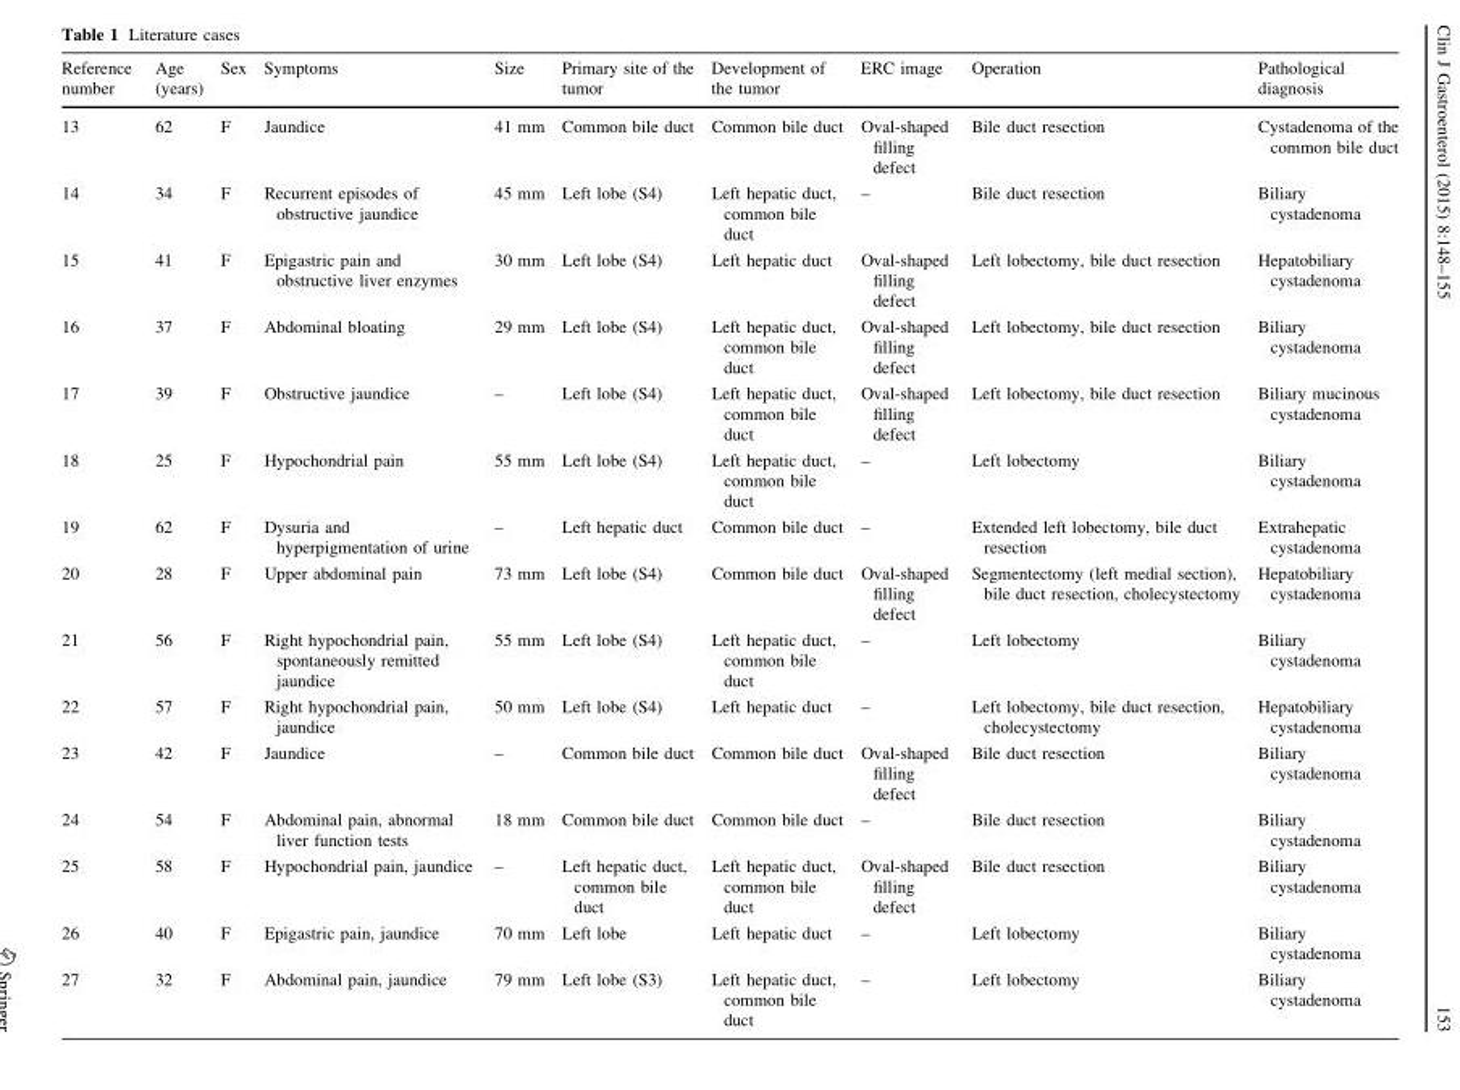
<table><thead><tr><td>Reference number</td><td>Age (years)</td><td>Sex</td><td>Symptoms</td><td>Size</td><td>Primary site of the tumor</td><td>Development of the tumor</td><td>ERC image</td><td>Operation</td><td>Pathological diagnosis</td></tr></thead><tbody><tr><td>13</td><td>62</td><td>F</td><td>Jaundice</td><td>41 mm</td><td>Common bile duct</td><td>Common bile duct</td><td>Oval-shaped filling defect</td><td>Bile duct resection</td><td>Cystadenoma of the common bile duct</td></tr><tr><td>14</td><td>34</td><td>F</td><td>Recurrent episodes of obstructive jaundice</td><td>45 mm</td><td>Left lobe (S4)</td><td>Left hepatic duct, common bile duct</td><td>–</td><td>Bile duct resection</td><td>Biliary cystadenoma</td></tr><tr><td>15</td><td>41</td><td>F</td><td>Epigastric pain and obstructive liver enzymes</td><td>30 mm</td><td>Left lobe (S4)</td><td>Left hepatic duct</td><td>Oval-shaped filling defect</td><td>Left lobectomy, bile duct resection</td><td>Hepatobiliary cystadenoma</td></tr><tr><td>16</td><td>37</td><td>F</td><td>Abdominal bloating</td><td>29 mm</td><td>Left lobe (S4)</td><td>Left hepatic duct, common bile duct</td><td>Oval-shaped filling defect</td><td>Left lobectomy, bile duct resection</td><td>Biliary cystadenoma</td></tr><tr><td>17</td><td>39</td><td>F</td><td>Obstructive jaundice</td><td>–</td><td>Left lobe (S4)</td><td>Left hepatic duct, common bile duct</td><td>Oval-shaped filling defect</td><td>Left lobectomy, bile duct resection</td><td>Biliary mucinous cystadenoma</td></tr><tr><td>18</td><td>25</td><td>F</td><td>Hypochondrial pain</td><td>55 mm</td><td>Left lobe (S4)</td><td>Left hepatic duct, common bile duct</td><td>–</td><td>Left lobectomy</td><td>Biliary cystadenoma</td></tr><tr><td>19</td><td>62</td><td>F</td><td>Dysuria and hyperpigmentation of urine</td><td>–</td><td>Left hepatic duct</td><td>Common bile duct</td><td>–</td><td>Extended left lobectomy, bile duct resection</td><td>Extrahepatic cystadenoma</td></tr><tr><td>20</td><td>28</td><td>F</td><td>Upper abdominal pain</td><td>73 mm</td><td>Left lobe (S4)</td><td>Common bile duct</td><td>Oval-shaped filling defect</td><td>Segmentectomy (left medial section), bile duct resection, cholecystectomy</td><td>Hepatobiliary cystadenoma</td></tr><tr><td>21</td><td>56</td><td>F</td><td>Right hypochondrial pain, spontaneously remitted jaundice</td><td>55 mm</td><td>Left lobe (S4)</td><td>Left hepatic duct, common bile duct</td><td>–</td><td>Left lobectomy</td><td>Biliary cystadenoma</td></tr><tr><td>22</td><td>57</td><td>F</td><td>Right hypochondrial pain, jaundice</td><td>50 mm</td><td>Left lobe (S4)</td><td>Left hepatic duct</td><td>–</td><td>Left lobectomy, bile duct resection, cholecystectomy</td><td>Hepatobiliary cystadenoma</td></tr><tr><td>23</td><td>42</td><td>F</td><td>Jaundice</td><td>–</td><td>Common bile duct</td><td>Common bile duct</td><td>Oval-shaped filling defect</td><td>Bile duct resection</td><td>Biliary cystadenoma</td></tr><tr><td>24</td><td>54</td><td>F</td><td>Abdominal pain, abnormal liver function tests</td><td>18 mm</td><td>Common bile duct</td><td>Common bile duct</td><td>–</td><td>Bile duct resection</td><td>Biliary cystadenoma</td></tr><tr><td>25</td><td>58</td><td>F</td><td>Hypochondrial pain, jaundice</td><td>–</td><td>Left hepatic duct, common bile duct</td><td>Left hepatic duct, common bile duct</td><td>Oval-shaped filling defect</td><td>Bile duct resection</td><td>Biliary cystadenoma</td></tr><tr><td>26</td><td>40</td><td>F</td><td>Epigastric pain, jaundice</td><td>70 mm</td><td>Left lobe</td><td>Left hepatic duct</td><td>–</td><td>Left lobectomy</td><td>Biliary cystadenoma</td></tr><tr><td>27</td><td>32</td><td>F</td><td>Abdominal pain, jaundice</td><td>79 mm</td><td>Left lobe (S3)</td><td>Left hepatic duct, common bile duct</td><td>–</td><td>Left lobectomy</td><td>Biliary cystadenoma</td></tr></tbody></table>